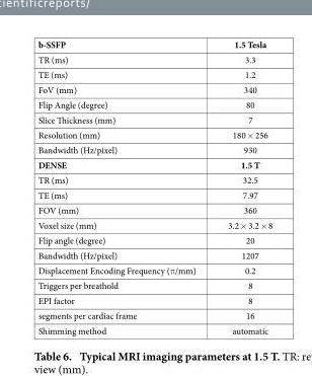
<table><tbody><tr><td>b-SSFP</td><td>1.5 Tesla</td></tr><tr><td>TR (ms)</td><td>3.3</td></tr><tr><td>TE (ms)</td><td>1.2</td></tr><tr><td>FoV (mm)</td><td>340</td></tr><tr><td>Flip Angle (degree)</td><td>80</td></tr><tr><td>Slice Thickness (mm)</td><td>7</td></tr><tr><td>Resolution (mm)</td><td>180 × 256</td></tr><tr><td>Bandwidth (Hz/pixel)</td><td>930</td></tr><tr><td>DENSE</td><td>1.5 T</td></tr><tr><td>TR (ms)</td><td>32.5</td></tr><tr><td>TE (ms)</td><td>7.97</td></tr><tr><td>FOV (mm)</td><td>360</td></tr><tr><td>Voxel size (mm)</td><td>3.2 × 3.2 × 8</td></tr><tr><td>Flip angle (degree)</td><td>20</td></tr><tr><td>Bandwidth (Hz/pixel)</td><td>1207</td></tr><tr><td>Displacement Encoding Frequency (π /mm)</td><td>0.2</td></tr><tr><td>Triggers per breathold</td><td>8</td></tr><tr><td>EPI factor</td><td>8</td></tr><tr><td>segments per cardiac frame</td><td>16</td></tr><tr><td>Shimming method</td><td>automatic</td></tr></tbody></table>